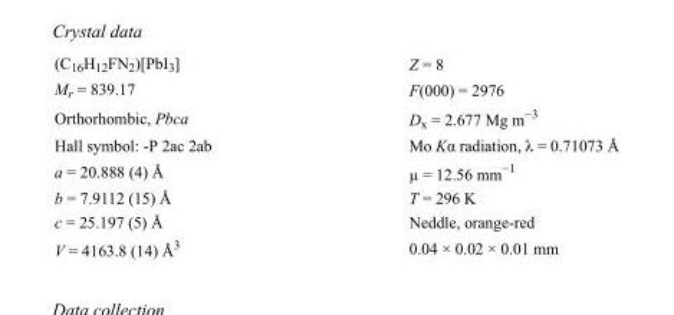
<table><tbody><tr><td>(C<sub>16</sub>H<sub>12</sub>FN<sub>2</sub>)[PbI<sub>3</sub>]</td><td>Z = 8</td></tr><tr><td>M<sub>r</sub> = 839.17</td><td>F(000) = 2976</td></tr><tr><td>Orthorhombic, Pbca</td><td>D<sub>x</sub> = 2.677 Mg m<sup>−3</sup></td></tr><tr><td>Hall symbol: -P 2ac 2ab</td><td>Mo Kα radiation, λ = 0.71073 Å</td></tr><tr><td>a = 20.888 (4) Å</td><td>µ = 12.56 mm<sup>−1</sup></td></tr><tr><td>b = 7.9112 (15) Å</td><td>T = 296 K</td></tr><tr><td>c = 25.197 (5) Å</td><td>Neddle, orange-red</td></tr><tr><td>V = 4163.8 (14) Å<sup>3</sup></td><td>0.04 × 0.02 × 0.01 mm</td></tr></tbody></table>